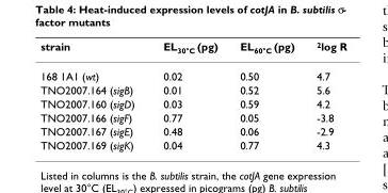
<table><thead><tr><td>strain</td><td>EL<sub>30°C</sub> (pg)</td><td>EL<sub>60°C</sub> (pg)</td><td><sup>2</sup>log R</td></tr></thead><tbody><tr><td>168 1A1 (wt)</td><td>0.02</td><td>0.50</td><td>4.7</td></tr><tr><td>TNO2007.164 (sigB)</td><td>0.01</td><td>0.52</td><td>5.6</td></tr><tr><td>TNO2007.160 (sigD)</td><td>0.03</td><td>0.59</td><td>4.2</td></tr><tr><td>TNO2007.166 (sigF)</td><td>0.77</td><td>0.05</td><td>-3.8</td></tr><tr><td>TNO2007.167 (sigE)</td><td>0.48</td><td>0.06</td><td>-2.9</td></tr><tr><td>TNO2007.169 (sigK)</td><td>0.04</td><td>0.77</td><td>4.3</td></tr></tbody></table>